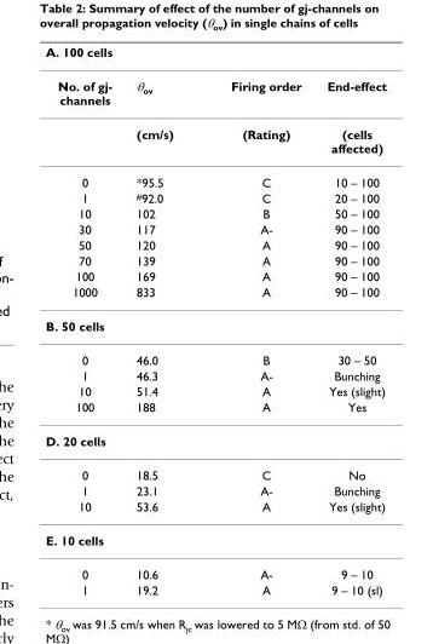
<table><thead><tr><td colspan="4">A. 100 cells</td></tr><tr><td>No. of gj- channels</td><td>θ<sub>ov</sub></td><td>Firing order</td><td>End-effect</td></tr></thead><tbody><tr><td></td><td>(cm/s)</td><td>(Rating)</td><td>(cells affected)</td></tr><tr><td>0</td><td>*95.5</td><td>C</td><td>10 – 100</td></tr><tr><td>1</td><td><sup>#</sup>92.0</td><td>C</td><td>20 – 100</td></tr><tr><td>10</td><td>102</td><td>B</td><td>50 – 100</td></tr><tr><td>30</td><td>117</td><td>A-</td><td>90 – 100</td></tr><tr><td>50</td><td>120</td><td>A</td><td>90 – 100</td></tr><tr><td>70</td><td>139</td><td>A</td><td>90 – 100</td></tr><tr><td>100</td><td>169</td><td>A</td><td>90 – 100</td></tr><tr><td>1000</td><td>833</td><td>A</td><td>90 – 100</td></tr><tr><td colspan="4">B. 50 cells</td></tr><tr><td>0</td><td>46.0</td><td>B</td><td>30 – 50</td></tr><tr><td>1</td><td>46.3</td><td>A-</td><td>Bunching</td></tr><tr><td>10</td><td>51.4</td><td>A</td><td>Yes (slight)</td></tr><tr><td>100</td><td>188</td><td>A</td><td>Yes</td></tr><tr><td colspan="4">D. 20 cells</td></tr><tr><td>0</td><td>18.5</td><td>C</td><td>No</td></tr><tr><td>1</td><td>23.1</td><td>A-</td><td>Bunching</td></tr><tr><td>10</td><td>53.6</td><td>A</td><td>Yes (slight)</td></tr><tr><td colspan="4">E. 10 cells</td></tr><tr><td>0</td><td>10.6</td><td>A-</td><td>9 – 10</td></tr><tr><td>1</td><td>19.2</td><td>A</td><td>9 – 10 (sl)</td></tr></tbody></table>